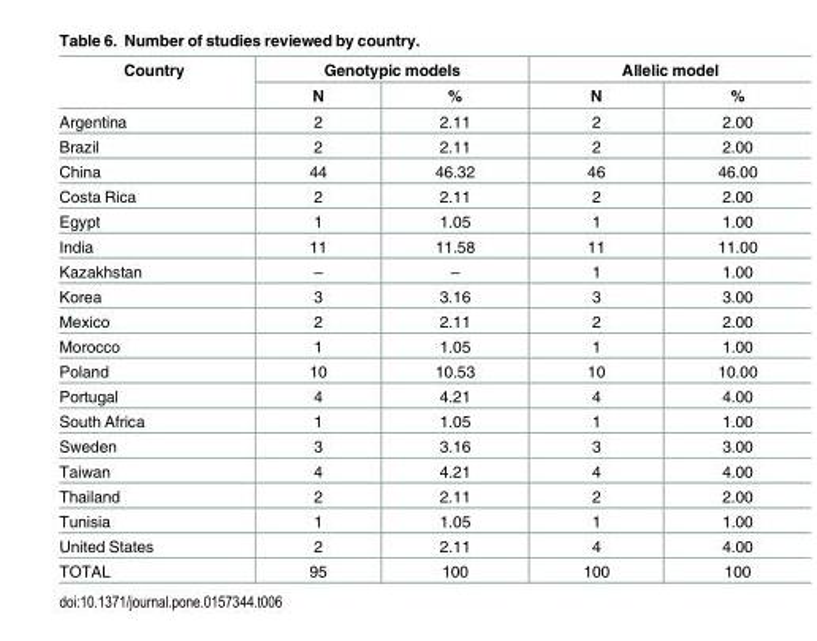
<table><thead><tr><td rowspan="2">Country</td><td colspan="2">Genotypic models</td><td colspan="2">Allelic model</td></tr><tr><td>N</td><td>%</td><td>N</td><td>%</td></tr></thead><tbody><tr><td>Argentina</td><td>2</td><td>2.11</td><td>2</td><td>2.00</td></tr><tr><td>Brazil</td><td>2</td><td>2.11</td><td>2</td><td>2.00</td></tr><tr><td>China</td><td>44</td><td>46.32</td><td>46</td><td>46.00</td></tr><tr><td>Costa Rica</td><td>2</td><td>2.11</td><td>2</td><td>2.00</td></tr><tr><td>Egypt</td><td>1</td><td>1.05</td><td>1</td><td>1.00</td></tr><tr><td>India</td><td>11</td><td>11.58</td><td>11</td><td>11.00</td></tr><tr><td>Kazakhstan</td><td>–</td><td>–</td><td>1</td><td>1.00</td></tr><tr><td>Korea</td><td>3</td><td>3.16</td><td>3</td><td>3.00</td></tr><tr><td>Mexico</td><td>2</td><td>2.11</td><td>2</td><td>2.00</td></tr><tr><td>Morocco</td><td>1</td><td>1.05</td><td>1</td><td>1.00</td></tr><tr><td>Poland</td><td>10</td><td>10.53</td><td>10</td><td>10.00</td></tr><tr><td>Portugal</td><td>4</td><td>4.21</td><td>4</td><td>4.00</td></tr><tr><td>South Africa</td><td>1</td><td>1.05</td><td>1</td><td>1.00</td></tr><tr><td>Sweden</td><td>3</td><td>3.16</td><td>3</td><td>3.00</td></tr><tr><td>Taiwan</td><td>4</td><td>4.21</td><td>4</td><td>4.00</td></tr><tr><td>Thailand</td><td>2</td><td>2.11</td><td>2</td><td>2.00</td></tr><tr><td>Tunisia</td><td>1</td><td>1.05</td><td>1</td><td>1.00</td></tr><tr><td>United States</td><td>2</td><td>2.11</td><td>4</td><td>4.00</td></tr><tr><td>TOTAL</td><td>95</td><td>100</td><td>100</td><td>100</td></tr></tbody></table>